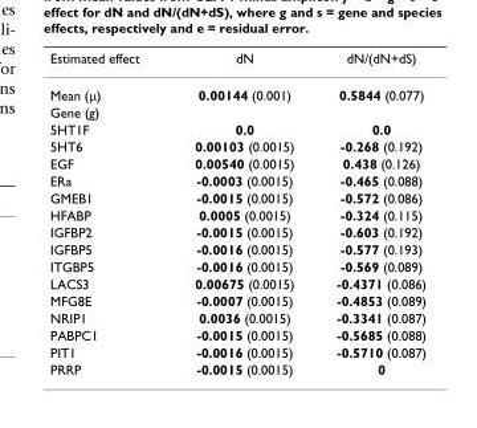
<table><thead><tr><td>Estimated effect</td><td>dN</td><td>dN/(dN+dS)</td></tr></thead><tbody><tr><td>Mean (μ)</td><td>0.00144 (0.001)</td><td>0.5844 (0.077)</td></tr><tr><td colspan="3">Gene (g)</td></tr><tr><td>5HT1F</td><td>0.0</td><td>0.0</td></tr><tr><td>5HT6</td><td>0.00103 (0.0015)</td><td>-0.268 (0.192)</td></tr><tr><td>EGF</td><td>0.00540 (0.0015)</td><td>0.438 (0.126)</td></tr><tr><td>ERa</td><td>-0.0003 (0.0015)</td><td>-0.465 (0.088)</td></tr><tr><td>GMEB1</td><td>-0.0015 (0.0015)</td><td>-0.572 (0.086)</td></tr><tr><td>HFABP</td><td>0.0005 (0.0015)</td><td>-0.324 (0.115)</td></tr><tr><td>IGFBP2</td><td>-0.0015 (0.0015)</td><td>-0.603 (0.192)</td></tr><tr><td>IGFBP5</td><td>-0.0016 (0.0015)</td><td>-0.577 (0.193)</td></tr><tr><td>ITGBP5</td><td>-0.0016 (0.0015)</td><td>-0.569 (0.089)</td></tr><tr><td>LACS3</td><td>0.00675 (0.0015)</td><td>-0.4371 (0.086)</td></tr><tr><td>MFG8E</td><td>-0.0007 (0.0015)</td><td>-0.4853 (0.089)</td></tr><tr><td>NRIP1</td><td>0.0036 (0.0015)</td><td>-0.3341 (0.087)</td></tr><tr><td>PABPC1</td><td>-0.0015 (0.0015)</td><td>-0.5685 (0.088)</td></tr><tr><td>PIT1</td><td>-0.0016 (0.0015)</td><td>-0.5710 (0.087)</td></tr><tr><td>PRRP</td><td>-0.0015 (0.0015)</td><td>0</td></tr></tbody></table>